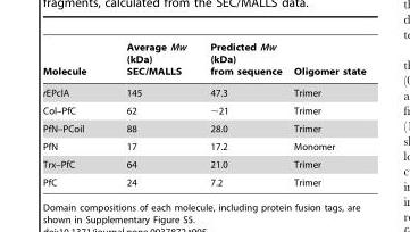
<table><thead><tr><td>Molecule</td><td>Average Mw (kDa) SEC/MALLS</td><td>Predicted Mw (kDa) from sequence</td><td>Oligomer state</td></tr></thead><tbody><tr><td>rEPclA</td><td>145</td><td>47.3</td><td>Trimer</td></tr><tr><td>Col–PfC</td><td>62</td><td>∼21</td><td>Trimer</td></tr><tr><td>PfN–PCoil</td><td>88</td><td>28.0</td><td>Trimer</td></tr><tr><td>PfN</td><td>17</td><td>17.2</td><td>Monomer</td></tr><tr><td>Trx–PfC</td><td>64</td><td>21.0</td><td>Trimer</td></tr><tr><td>PfC</td><td>24</td><td>7.2</td><td>Trimer</td></tr></tbody></table>